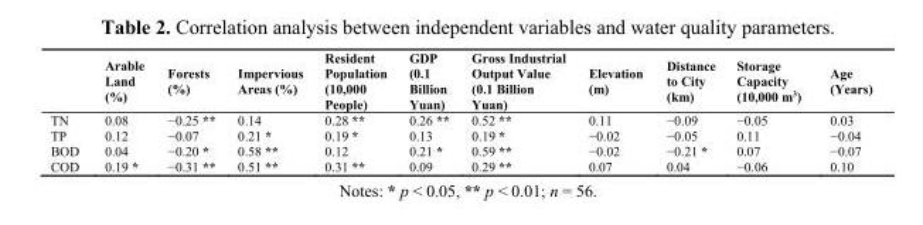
<table><thead><tr><td></td><td>Arable Land (%)</td><td>Forests (%)</td><td>Impervious Areas (%)</td><td>Resident Population (10,000 People)</td><td>GDP (0.1 Billion Yuan)</td><td>Gross Industrial Output Value (0.1 Billion Yuan)</td><td>Elevation (m)</td><td>Distance to City (km)</td><td>Storage Capacity (10,000 m<sup>3</sup>)</td><td>Age (Years)</td></tr></thead><tbody><tr><td>TN</td><td>0.08</td><td>−0.25 **</td><td>0.14</td><td>0.28 **</td><td>0.26 **</td><td>0.52 **</td><td>0.11</td><td>−0.09</td><td>−0.05</td><td>0.03</td></tr><tr><td>TP</td><td>0.12</td><td>−0.07</td><td>0.21 *</td><td>0.19 *</td><td>0.13</td><td>0.19 *</td><td>−0.02</td><td>−0.05</td><td>0.11</td><td>−0.04</td></tr><tr><td>BOD</td><td>0.04</td><td>−0.20 *</td><td>0.58 **</td><td>0.12</td><td>0.21 *</td><td>0.59 **</td><td>−0.02</td><td>−0.21 *</td><td>0.07</td><td>−0.07</td></tr><tr><td>COD</td><td>0.19 *</td><td>−0.31 **</td><td>0.51 **</td><td>0.31 **</td><td>0.09</td><td>0.29 **</td><td>0.07</td><td>0.04</td><td>−0.06</td><td>0.10</td></tr></tbody></table>